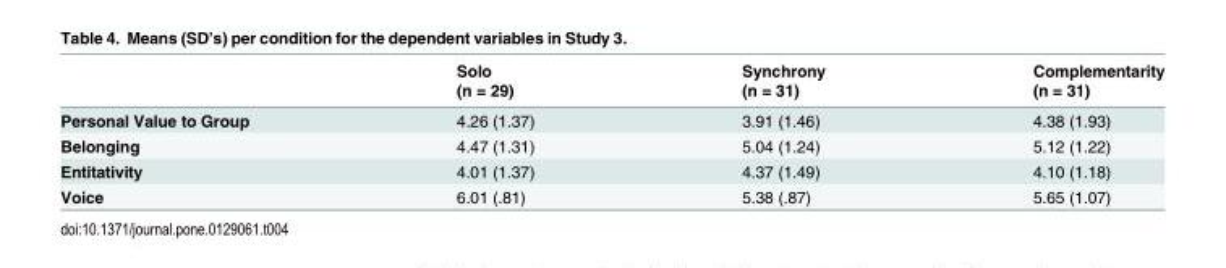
<table><thead><tr><td rowspan="2"></td><td rowspan="2">Solo (n = 29)</td><td rowspan="2">Synchrony (n = 31)</td><td rowspan="2">Complementarity (n = 31)</td></tr><tr></tr></thead><tbody><tr><td>Personal Value to Group</td><td>4.26 (1.37)</td><td>3.91 (1.46)</td><td>4.38 (1.93)</td></tr><tr><td>Belonging</td><td>4.47 (1.31)</td><td>5.04 (1.24)</td><td>5.12 (1.22)</td></tr><tr><td>Entitativity</td><td>4.01 (1.37)</td><td>4.37 (1.49)</td><td>4.10 (1.18)</td></tr><tr><td>Voice</td><td>6.01 (.81)</td><td>5.38 (.87)</td><td>5.65 (1.07)</td></tr></tbody></table>